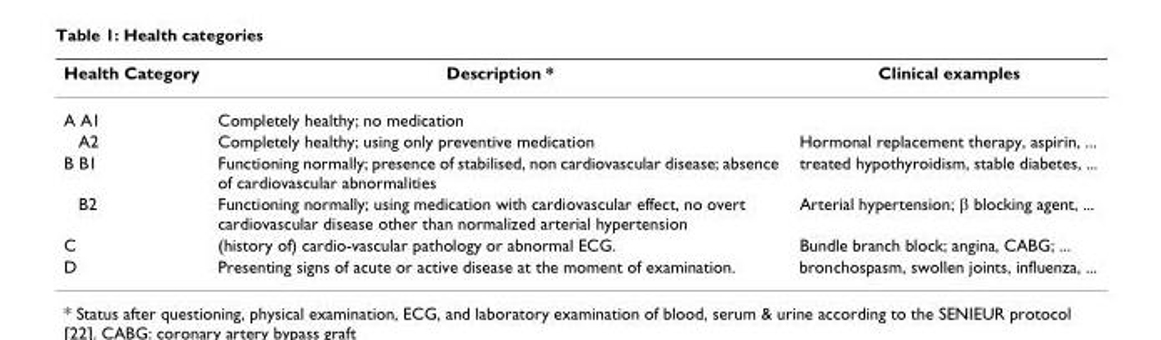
<table><thead><tr><td>Health Category</td><td>Description *</td><td>Clinical examples</td></tr></thead><tbody><tr><td>A A1</td><td>Completely healthy; no medication</td><td></td></tr><tr><td>A2</td><td>Completely healthy; using only preventive medication</td><td>Hormonal replacement therapy, aspirin, ...</td></tr><tr><td>B B1</td><td>Functioning normally; presence of stabilised, non cardiovascular disease; absence of cardiovascular abnormalities</td><td>treated hypothyroidism, stable diabetes, ...</td></tr><tr><td>B2</td><td>Functioning normally; using medication with cardiovascular effect, no overt cardiovascular disease other than normalized arterial hypertension</td><td>Arterial hypertension; β blocking agent, ...</td></tr><tr><td>C</td><td>(history of) cardio-vascular pathology or abnormal ECG.</td><td>Bundle branch block; angina, CABG; ...</td></tr><tr><td>D</td><td>Presenting signs of acute or active disease at the moment of examination.</td><td>bronchospasm, swollen joints, influenza, ...</td></tr></tbody></table>